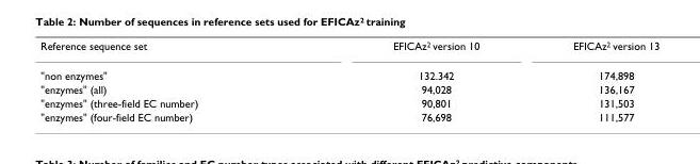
<table><tbody><tr><td>Reference sequence set</td><td>EFICAz<sup>2</sup> version 10</td><td>EFICAz<sup>2</sup> version 13</td></tr><tr><td>&quot;non enzymes&quot;</td><td>132.342</td><td>174,898</td></tr><tr><td>&quot;enzymes&quot; (all)</td><td>94,028</td><td>136,167</td></tr><tr><td>&quot;enzymes&quot; (three-field EC number)</td><td>90,801</td><td>131,503</td></tr><tr><td>&quot;enzymes&quot; (four-field EC number)</td><td>76,698</td><td>111,577</td></tr></tbody></table>